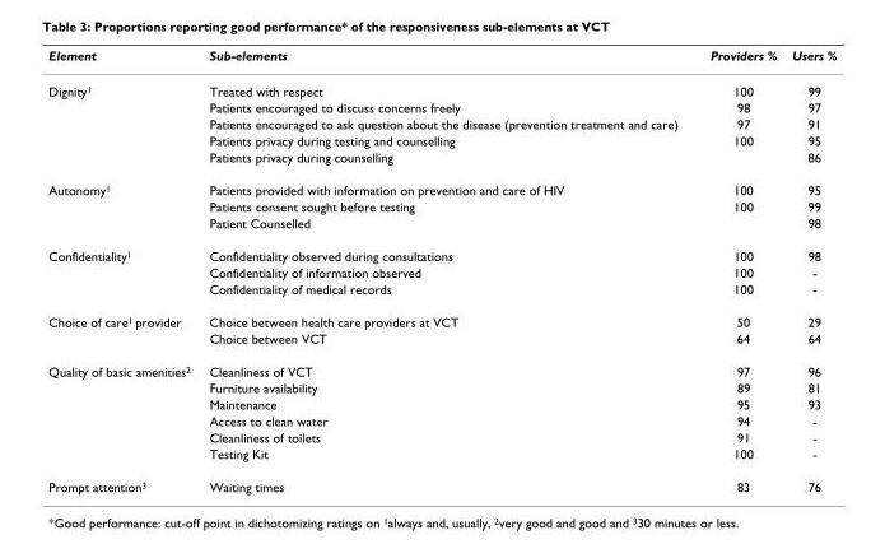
<table><thead><tr><td>Element</td><td>Sub-elements</td><td>Providers %</td><td>Users %</td></tr></thead><tbody><tr><td rowspan="5">Dignity<sup>1</sup></td><td>Treated with respect</td><td>100</td><td>99</td></tr><tr><td>Patients encouraged to discuss concerns freely</td><td>98</td><td>97</td></tr><tr><td>Patients encouraged to ask question about the disease (prevention treatment and care)</td><td>97</td><td>91</td></tr><tr><td>Patients privacy during testing and counselling</td><td>100</td><td>95</td></tr><tr><td>Patients privacy during counselling</td><td></td><td>86</td></tr><tr><td rowspan="3">Autonomy<sup>1</sup></td><td>Patients provided with information on prevention and care of HIV</td><td>100</td><td>95</td></tr><tr><td>Patients consent sought before testing</td><td>100</td><td>99</td></tr><tr><td>Patient Counselled</td><td></td><td>98</td></tr><tr><td rowspan="3">Confidentiality<sup>1</sup></td><td>Confidentiality observed during consultations</td><td>100</td><td>98</td></tr><tr><td>Confidentiality of information observed</td><td>100</td><td>-</td></tr><tr><td>Confidentiality of medical records</td><td>100</td><td>-</td></tr><tr><td rowspan="2">Choice of care<sup>1</sup> provider</td><td>Choice between health care providers at VCT</td><td>50</td><td>29</td></tr><tr><td>Choice between VCT</td><td>64</td><td>64</td></tr><tr><td rowspan="6">Quality of basic amenities<sup>2</sup></td><td>Cleanliness of VCT</td><td>97</td><td>96</td></tr><tr><td>Furniture availability</td><td>89</td><td>81</td></tr><tr><td>Maintenance</td><td>95</td><td>93</td></tr><tr><td>Access to clean water</td><td>94</td><td>-</td></tr><tr><td>Cleanliness of toilets</td><td>91</td><td>-</td></tr><tr><td>Testing Kit</td><td>100</td><td>-</td></tr><tr><td>Prompt attention<sup>3</sup></td><td>Waiting times</td><td>83</td><td>76</td></tr></tbody></table>